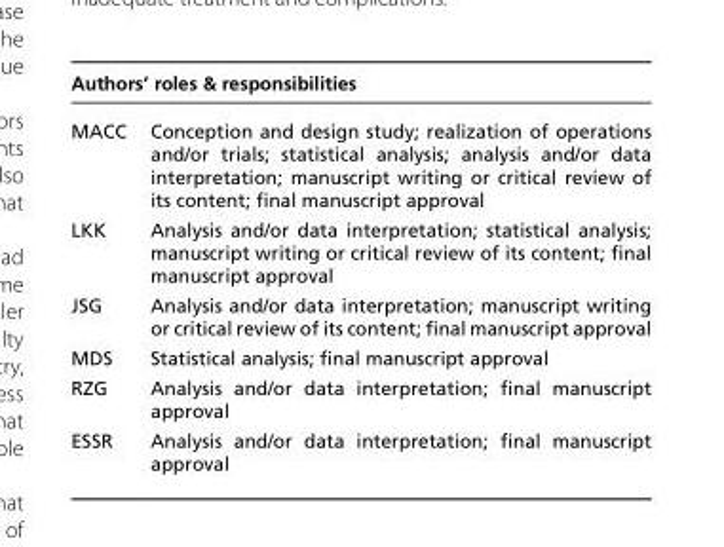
<table><thead><tr><td colspan="2">Authors’ roles &amp; responsibilities</td></tr><tr><td>MACC</td><td>Conception and design study; realization of operations and/or trials; statistical analysis; analysis and/or data interpretation; manuscript writing or critical review of its content; final manuscript approval</td></tr></thead><tbody><tr><td>LKK</td><td>Analysis and/or data interpretation; statistical analysis; manuscript writing or critical review of its content; final manuscript approval</td></tr><tr><td>JSG</td><td>Analysis and/or data interpretation; manuscript writing or critical review of its content; final manuscript approval</td></tr><tr><td>MDS</td><td>Statistical analysis; final manuscript approval</td></tr><tr><td>RZG</td><td>Analysis and/or data interpretation; final manuscript approval</td></tr><tr><td>ESSR</td><td>Analysis and/or data interpretation; final manuscript approval</td></tr></tbody></table>